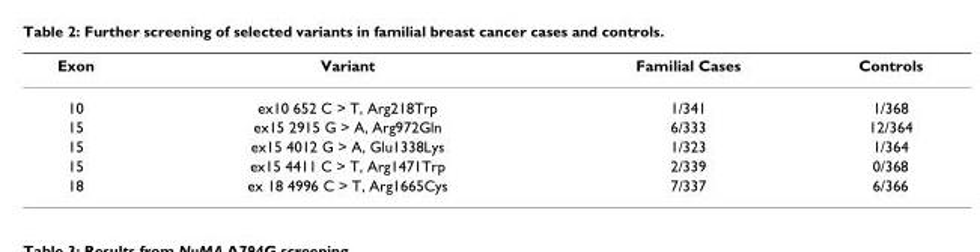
<table><thead><tr><td>Exon</td><td>Variant</td><td>Familial Cases</td><td>Controls</td></tr></thead><tbody><tr><td>10</td><td>ex10 652 C &gt; T, Arg218Trp</td><td>1/341</td><td>1/368</td></tr><tr><td>15</td><td>ex15 2915 G &gt; A, Arg972Gln</td><td>6/333</td><td>12/364</td></tr><tr><td>15</td><td>ex15 4012 G &gt; A, Glu1338Lys</td><td>1/323</td><td>1/364</td></tr><tr><td>15</td><td>ex15 4411 C &gt; T, Arg1471Trp</td><td>2/339</td><td>0/368</td></tr><tr><td>18</td><td>ex 18 4996 C &gt; T, Arg1665Cys</td><td>7/337</td><td>6/366</td></tr></tbody></table>